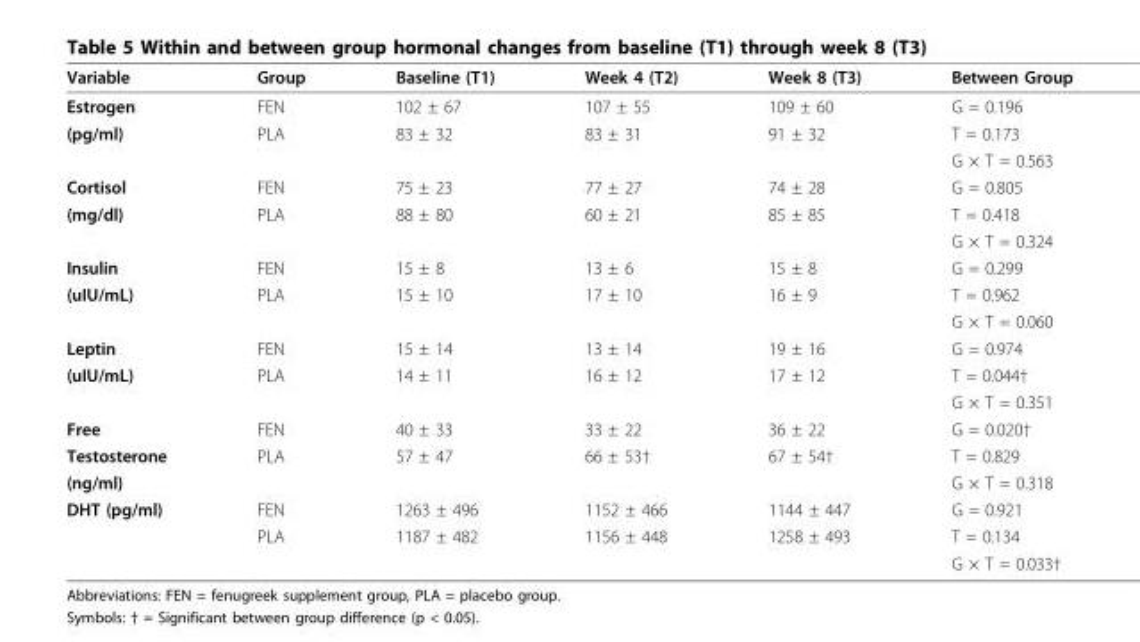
<table><thead><tr><td>Variable</td><td>Group</td><td>Baseline (T1)</td><td>Week 4 (T2)</td><td>Week 8 (T3)</td><td>Between Group</td></tr></thead><tbody><tr><td>Estrogen</td><td>FEN</td><td>102 ± 67</td><td>107 ± 55</td><td>109 ± 60</td><td>G = 0.196</td></tr><tr><td rowspan="2">(pg/ml)</td><td>PLA</td><td>83 ± 32</td><td>83 ± 31</td><td>91 ± 32</td><td>T = 0.173</td></tr><tr><td></td><td></td><td></td><td></td><td>G × T = 0.563</td></tr><tr><td>Cortisol</td><td>FEN</td><td>75 ± 23</td><td>77 ± 27</td><td>74 ± 28</td><td>G = 0.805</td></tr><tr><td rowspan="2">(mg/dl)</td><td>PLA</td><td>88 ± 80</td><td>60 ± 21</td><td>85 ± 85</td><td>T = 0.418</td></tr><tr><td></td><td></td><td></td><td></td><td>G × T = 0.324</td></tr><tr><td>Insulin</td><td>FEN</td><td>15 ± 8</td><td>13 ± 6</td><td>15 ± 8</td><td>G = 0.299</td></tr><tr><td rowspan="2">(uIU/mL)</td><td>PLA</td><td>15 ± 10</td><td>17 ± 10</td><td>16 ± 9</td><td>T = 0.962</td></tr><tr><td></td><td></td><td></td><td></td><td>G × T = 0.060</td></tr><tr><td>Leptin</td><td>FEN</td><td>15 ± 14</td><td>13 ± 14</td><td>19 ± 16</td><td>G = 0.974</td></tr><tr><td rowspan="2">(uIU/mL)</td><td>PLA</td><td>14 ± 11</td><td>16 ± 12</td><td>17 ± 12</td><td>T = 0.044†</td></tr><tr><td></td><td></td><td></td><td></td><td>G × T = 0.351</td></tr><tr><td>Free</td><td>FEN</td><td>40 ± 33</td><td>33 ± 22</td><td>36 ± 22</td><td>G = 0.020†</td></tr><tr><td>Testosterone</td><td>PLA</td><td>57 ± 47</td><td>66 ± 53†</td><td>67 ± 54†</td><td>T = 0.829</td></tr><tr><td>(ng/ml)</td><td></td><td></td><td></td><td></td><td>G × T = 0.318</td></tr><tr><td rowspan="3">DHT (pg/ml)</td><td>FEN</td><td>1263 ± 496</td><td>1152 ± 466</td><td>1144 ± 447</td><td>G = 0.921</td></tr><tr><td>PLA</td><td>1187 ± 482</td><td>1156 ± 448</td><td>1258 ± 493</td><td>T = 0.134</td></tr><tr><td></td><td></td><td></td><td></td><td>G × T = 0.033†</td></tr></tbody></table>